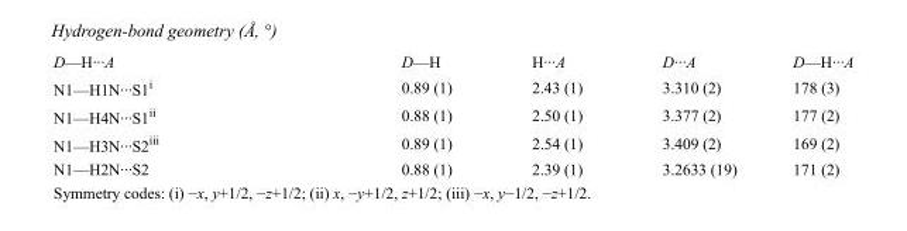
<table><tbody><tr><td>D—H···A</td><td>D—H</td><td>H···A</td><td>D···A</td><td>D—H···A</td></tr><tr><td>N1—H1N···S1<sup>i</sup></td><td>0.89 (1)</td><td>2.43 (1)</td><td>3.310 (2)</td><td>178 (3)</td></tr><tr><td>N1—H4N···S1<sup>ii</sup></td><td>0.88 (1)</td><td>2.50 (1)</td><td>3.377 (2)</td><td>177 (2)</td></tr><tr><td>N1—H3N···S2<sup>iii</sup></td><td>0.89 (1)</td><td>2.54 (1)</td><td>3.409 (2)</td><td>169 (2)</td></tr><tr><td>N1—H2N···S2</td><td>0.88 (1)</td><td>2.39 (1)</td><td>3.2633 (19)</td><td>171 (2)</td></tr></tbody></table>